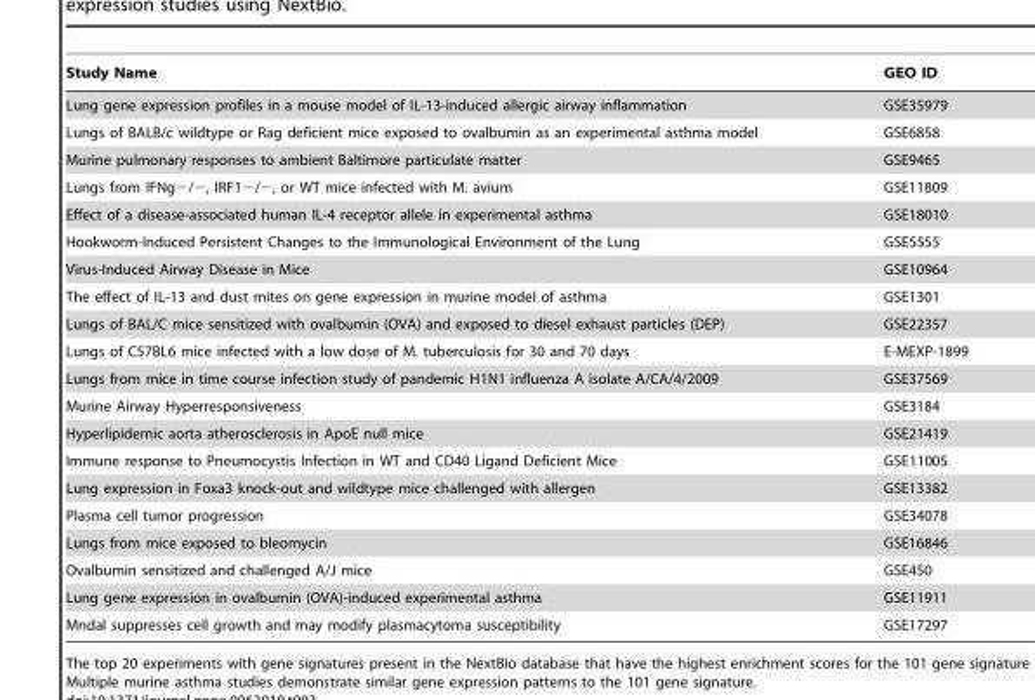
<table><thead><tr><td>Study Name</td><td>GEO ID</td></tr></thead><tbody><tr><td>Lung gene expression profiles in a mouse model of IL-13-induced allergic airway inflammation</td><td>GSE35979</td></tr><tr><td>Lungs of BALB/c wildtype or Rag deficient mice exposed to ovalbumin as an experimental asthma model</td><td>GSE6858</td></tr><tr><td>Murine pulmonary responses to ambient Baltimore particulate matter</td><td>GSE9465</td></tr><tr><td>Lungs from IFNg−/−, IRF1−/−, or WT mice infected with M. avium</td><td>GSE11809</td></tr><tr><td>Effect of a disease-associated human IL-4 receptor allele in experimental asthma</td><td>GSE18010</td></tr><tr><td>Hookworm-Induced Persistent Changes to the Immunological Environment of the Lung</td><td>GSE5555</td></tr><tr><td>Virus-Induced Airway Disease in Mice</td><td>GSE10964</td></tr><tr><td>The effect of IL-13 and dust mites on gene expression in murine model of asthma</td><td>GSE1301</td></tr><tr><td>Lungs of BAL/C mice sensitized with ovalbumin (OVA) and exposed to diesel exhaust particles (DEP)</td><td>GSE22357</td></tr><tr><td>Lungs of C57BL6 mice infected with a low dose of M. tuberculosis for 30 and 70 days</td><td>E-MEXP-1899</td></tr><tr><td>Lungs from mice in time course infection study of pandemic H1N1 influenza A isolate A/CA/4/2009</td><td>GSE37569</td></tr><tr><td>Murine Airway Hyperresponsiveness</td><td>GSE3184</td></tr><tr><td>Hyperlipidemic aorta atherosclerosis in ApoE null mice</td><td>GSE21419</td></tr><tr><td>Immune response to Pneumocystis Infection in WT and CD40 Ligand Deficient Mice</td><td>GSE11005</td></tr><tr><td>Lung expression in Foxa3 knock-out and wildtype mice challenged with allergen</td><td>GSE13382</td></tr><tr><td>Plasma cell tumor progression</td><td>GSE34078</td></tr><tr><td>Lungs from mice exposed to bleomycin</td><td>GSE16846</td></tr><tr><td>Ovalbumin sensitized and challenged A/J mice</td><td>GSE450</td></tr><tr><td>Lung gene expression in ovalbumin (OVA)-induced experimental asthma</td><td>GSE11911</td></tr><tr><td>Mndal suppresses cell growth and may modify plasmacytoma susceptibility</td><td>GSE17297</td></tr></tbody></table>